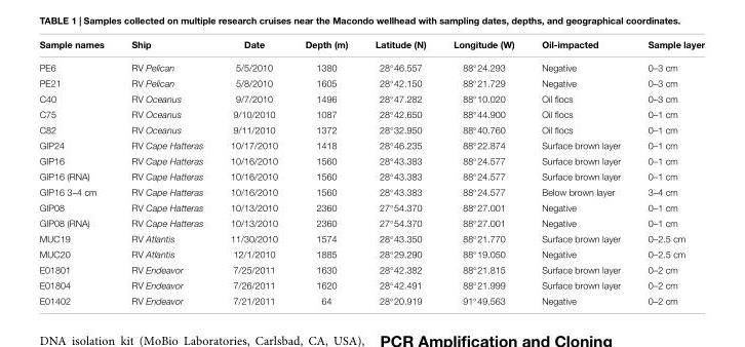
<table><thead><tr><td>Sample names</td><td>Ship</td><td>Date</td><td>Depth (m)</td><td>Latitude (N)</td><td>Longitude (W)</td><td>Oil-impacted</td><td>Sample layer</td></tr></thead><tbody><tr><td>PE6</td><td>RV Pelican</td><td>5/5/2010</td><td>1380</td><td>28◦46.557</td><td>88◦24.293</td><td>Negative</td><td>0–3 cm</td></tr><tr><td>PE21</td><td>RV Pelican</td><td>5/8/2010</td><td>1605</td><td>28◦42.150</td><td>88◦21.729</td><td>Negative</td><td>0–3 cm</td></tr><tr><td>C40</td><td>RV Oceanus</td><td>9/7/2010</td><td>1496</td><td>28◦47.282</td><td>88◦10.020</td><td>Oil flocs</td><td>0–3 cm</td></tr><tr><td>C75</td><td>RV Oceanus</td><td>9/10/2010</td><td>1087</td><td>28◦42.650</td><td>88◦44.900</td><td>Oil flocs</td><td>0–1 cm</td></tr><tr><td>C82</td><td>RV Oceanus</td><td>9/11/2010</td><td>1372</td><td>28◦32.950</td><td>88◦40.760</td><td>Oil flocs</td><td>0–1 cm</td></tr><tr><td>GIP24</td><td>RV Cape Hatteras</td><td>10/17/2010</td><td>1418</td><td>28◦46.235</td><td>88◦22.874</td><td>Surface brown layer</td><td>0–1 cm</td></tr><tr><td>GIP16</td><td>RV Cape Hatteras</td><td>10/16/2010</td><td>1560</td><td>28◦43.383</td><td>88◦24.577</td><td>Surface brown layer</td><td>0–1 cm</td></tr><tr><td>GIP16 (RNA)</td><td>RV Cape Hatteras</td><td>10/16/2010</td><td>1560</td><td>28◦43.383</td><td>88◦24.577</td><td>Surface brown layer</td><td>0–1 cm</td></tr><tr><td>GIP16 3–4 cm</td><td>RV Cape Hatteras</td><td>10/16/2010</td><td>1560</td><td>28◦43.383</td><td>88◦24.577</td><td>Below brown layer</td><td>3–4 cm</td></tr><tr><td>GIP08</td><td>RV Cape Hatteras</td><td>10/13/2010</td><td>2360</td><td>27◦54.370</td><td>88◦27.001</td><td>Negative</td><td>0–1 cm</td></tr><tr><td>GIP08 (RNA)</td><td>RV Cape Hatteras</td><td>10/13/2010</td><td>2360</td><td>27◦54.370</td><td>88◦27.001</td><td>Negative</td><td>0–1 cm</td></tr><tr><td>MUC19</td><td>RV Atlantis</td><td>11/30/2010</td><td>1574</td><td>28◦43.350</td><td>88◦21.770</td><td>Surface brown layer</td><td>0–2.5 cm</td></tr><tr><td>MUC20</td><td>RV Atlantis</td><td>12/1/2010</td><td>1885</td><td>28◦29.290</td><td>88◦19.050</td><td>Negative</td><td>0–2.5 cm</td></tr><tr><td>E01801</td><td>RV Endeavor</td><td>7/25/2011</td><td>1630</td><td>28◦42.382</td><td>88◦21.815</td><td>Surface brown layer</td><td>0–2 cm</td></tr><tr><td>E01804</td><td>RV Endeavor</td><td>7/26/2011</td><td>1620</td><td>28◦42.491</td><td>88◦21.999</td><td>Surface brown layer</td><td>0–2 cm</td></tr><tr><td>E01402</td><td>RV Endeavor</td><td>7/21/2011</td><td>64</td><td>28◦20.919</td><td>91◦49.563</td><td>Negative</td><td>0–2 cm</td></tr></tbody></table>